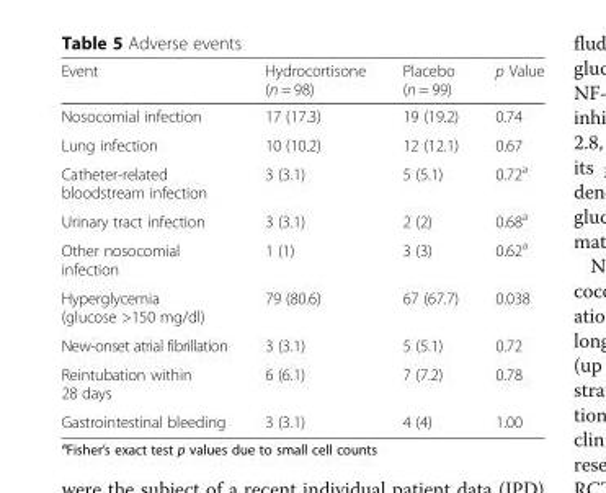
<table><thead><tr><td>Event</td><td>Hydrocortisone (n = 98)</td><td>Placebo (n = 99)</td><td>p Value</td></tr></thead><tbody><tr><td>Nosocomial infection</td><td>17 (17.3)</td><td>19 (19.2)</td><td>0.74</td></tr><tr><td>Lung infection</td><td>10 (10.2)</td><td>12 (12.1)</td><td>0.67</td></tr><tr><td>Catheter-related bloodstream infection</td><td>3 (3.1)</td><td>5 (5.1)</td><td>0.72<sup>a</sup></td></tr><tr><td>Urinary tract infection</td><td>3 (3.1)</td><td>2 (2)</td><td>0.68<sup>a</sup></td></tr><tr><td>Other nosocomial infection</td><td>1 (1)</td><td>3 (3)</td><td>0.62<sup>a</sup></td></tr><tr><td>Hyperglycemia (glucose &gt;150 mg/dl)</td><td>79 (80.6)</td><td>67 (67.7)</td><td>0.038</td></tr><tr><td>New-onset atrial fibrillation</td><td>3 (3.1)</td><td>5 (5.1)</td><td>0.72</td></tr><tr><td>Reintubation within 28 days</td><td>6 (6.1)</td><td>7 (7.2)</td><td>0.78</td></tr><tr><td>Gastrointestinal bleeding</td><td>3 (3.1)</td><td>4 (4)</td><td>1.00</td></tr></tbody></table>